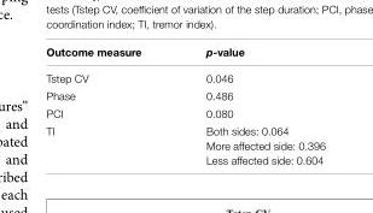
<table><thead><tr><td>Outcome measure</td><td>p-value</td></tr></thead><tbody><tr><td>Tstep CV</td><td>0.046</td></tr><tr><td>Phase</td><td>0.486</td></tr><tr><td>PCI</td><td>0.080</td></tr><tr><td rowspan="3">TI</td><td>Both sides: 0.064</td></tr><tr><td>More affected side: 0.396</td></tr><tr><td>Less affected side: 0.604</td></tr></tbody></table>